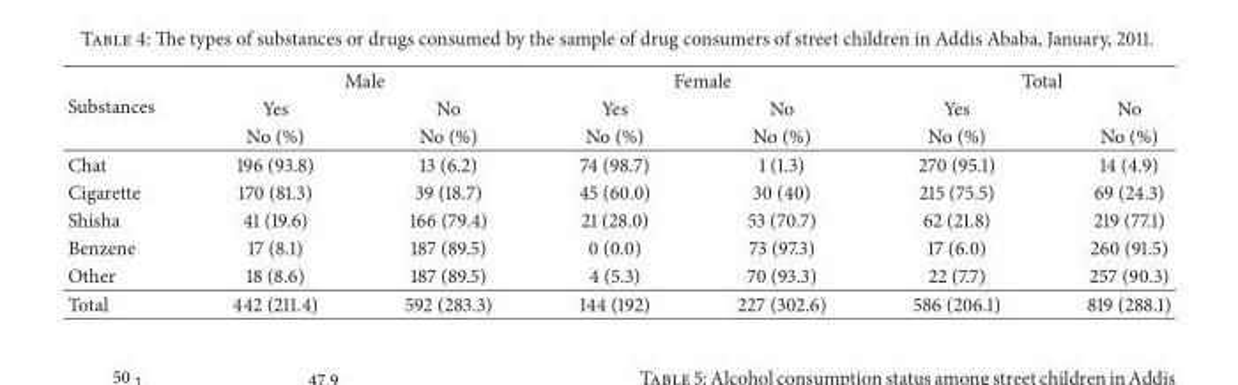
<table><thead><tr><td rowspan="3">Substances</td><td colspan="2">Male</td><td colspan="2">Female</td><td colspan="2">Total</td></tr><tr><td rowspan="2">Yes No (%)</td><td rowspan="2">No No (%)</td><td rowspan="2">Yes No (%)</td><td rowspan="2">No No (%)</td><td rowspan="2">Yes No (%)</td><td rowspan="2">No No (%)</td></tr><tr></tr></thead><tbody><tr><td>Chat</td><td>196 (93.8)</td><td>13 (6.2)</td><td>74 (98.7)</td><td>1 (1.3)</td><td>270 (95.1)</td><td>14 (4.9)</td></tr><tr><td>Cigarette</td><td>170 (81.3)</td><td>39 (18.7)</td><td>45 (60.0)</td><td>30 (40)</td><td>215 (75.5)</td><td>69 (24.3)</td></tr><tr><td>Shisha</td><td>41 (19.6)</td><td>166 (79.4)</td><td>21 (28.0)</td><td>53 (70.7)</td><td>62 (21.8)</td><td>219 (77.1)</td></tr><tr><td>Benzene</td><td>17 (8.1)</td><td>187 (89.5)</td><td>0 (0.0)</td><td>73 (97.3)</td><td>17 (6.0)</td><td>260 (91.5)</td></tr><tr><td>Other</td><td>18 (8.6)</td><td>187 (89.5)</td><td>4 (5.3)</td><td>70 (93.3)</td><td>22 (7.7)</td><td>257 (90.3)</td></tr><tr><td>Total</td><td>442 (211.4)</td><td>592 (283.3)</td><td>144 (192)</td><td>227 (302.6)</td><td>586 (206.1)</td><td>819 (288.1)</td></tr></tbody></table>